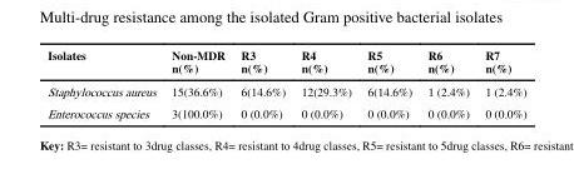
<table><thead><tr><td>Isolates</td><td>Non-MDR n(%)</td><td>R3 n(%)</td><td>R4 n(%)</td><td>R5 n(%)</td><td>R6 n(%)</td><td>R7 n(%)</td></tr></thead><tbody><tr><td>Staphylococcus aureus</td><td>15(36.6%)</td><td>6(14.6%)</td><td>12(29.3%)</td><td>6(14.6%)</td><td>1 (2.4%)</td><td>1 (2.4%)</td></tr><tr><td>Enterococcus species</td><td>3(100.0%)</td><td>0 (0.0%)</td><td>0 (0.0%)</td><td>0 (0.0%)</td><td>0 (0.0%)</td><td>0 (0.0%)</td></tr></tbody></table>